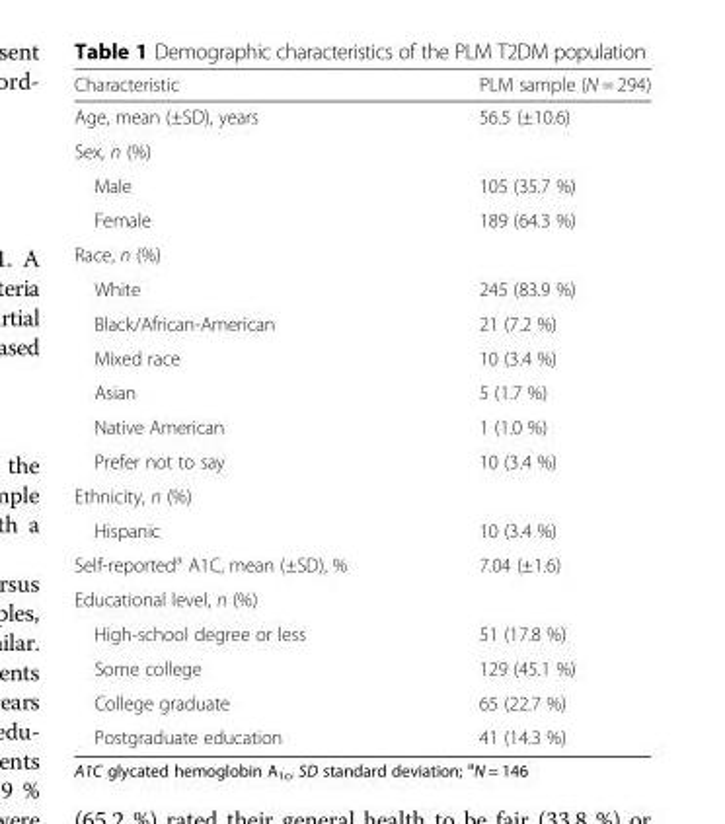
<table><thead><tr><td>Characteristic</td><td>PLM sample (N = 294)</td></tr></thead><tbody><tr><td>Age, mean (±SD), years</td><td>56.5 (±10.6)</td></tr><tr><td colspan="2">Sex, n (%)</td></tr><tr><td>Male</td><td>105 (35.7 %)</td></tr><tr><td>Female</td><td>189 (64.3 %)</td></tr><tr><td colspan="2">Race, n (%)</td></tr><tr><td>White</td><td>245 (83.9 %)</td></tr><tr><td>Black/African-American</td><td>21 (7.2 %)</td></tr><tr><td>Mixed race</td><td>10 (3.4 %)</td></tr><tr><td>Asian</td><td>5 (1.7 %)</td></tr><tr><td>Native American</td><td>1 (1.0 %)</td></tr><tr><td>Prefer not to say</td><td>10 (3.4 %)</td></tr><tr><td colspan="2">Ethnicity, n (%)</td></tr><tr><td>Hispanic</td><td>10 (3.4 %)</td></tr><tr><td>Self-reported<sup>a</sup> A1C, mean (±SD), %</td><td>7.04 (±1.6)</td></tr><tr><td colspan="2">Educational level, n (%)</td></tr><tr><td>High-school degree or less</td><td>51 (17.8 %)</td></tr><tr><td>Some college</td><td>129 (45.1 %)</td></tr><tr><td>College graduate</td><td>65 (22.7 %)</td></tr><tr><td>Postgraduate education</td><td>41 (14.3 %)</td></tr></tbody></table>